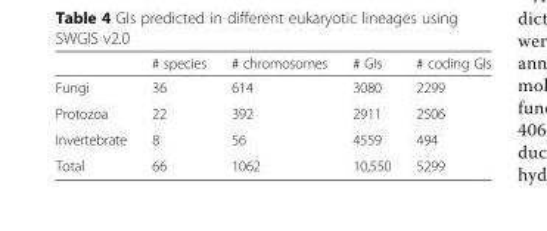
<table><thead><tr><td></td><td># species</td><td># chromosomes</td><td># GIs</td><td># coding GIs</td></tr></thead><tbody><tr><td>Fungi</td><td>36</td><td>614</td><td>3080</td><td>2299</td></tr><tr><td>Protozoa</td><td>22</td><td>392</td><td>2911</td><td>2506</td></tr><tr><td>Invertebrate</td><td>8</td><td>56</td><td>4559</td><td>494</td></tr><tr><td>Total</td><td>66</td><td>1062</td><td>10,550</td><td>5299</td></tr></tbody></table>